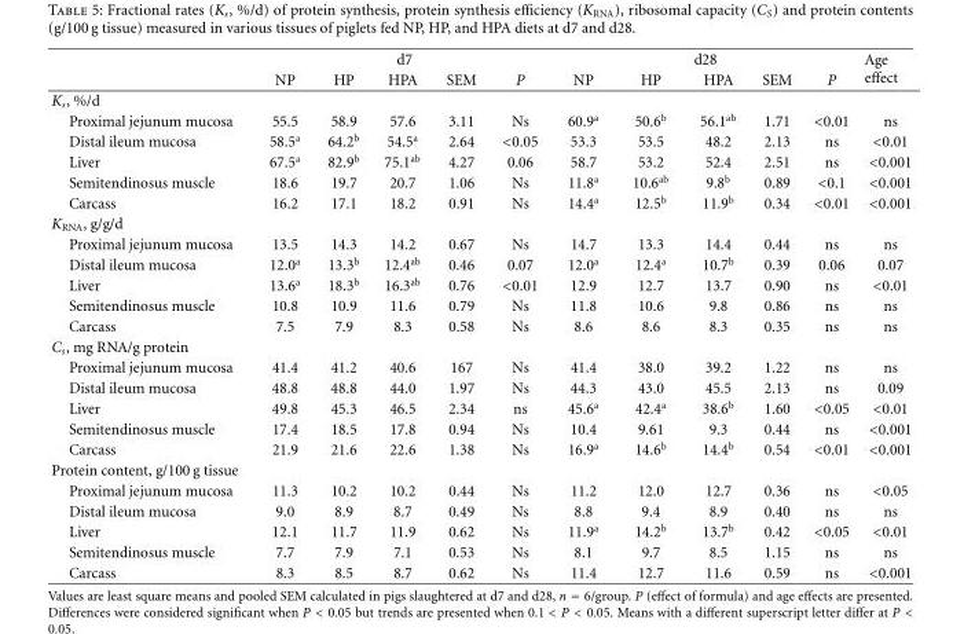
<table><thead><tr><td rowspan="2"></td><td colspan="5">d7</td><td colspan="5">d28</td><td rowspan="2">Age effect</td></tr><tr><td>NP</td><td>HP</td><td>HPA</td><td>SEM</td><td>P</td><td>NP</td><td>HP</td><td>HPA</td><td>SEM</td><td>P</td></tr></thead><tbody><tr><td colspan="12">K<sub>s</sub>, %/d</td></tr><tr><td>Proximal jejunum mucosa</td><td>55.5</td><td>58.9</td><td>57.6</td><td>3.11</td><td>Ns</td><td>60.9<sup>a</sup></td><td>50.6<sup>b</sup></td><td>56.1<sup>ab</sup></td><td>1.71</td><td>&lt;0.01</td><td>ns</td></tr><tr><td>Distal ileum mucosa</td><td>58.5<sup>a</sup></td><td>64.2<sup>b</sup></td><td>54.5<sup>a</sup></td><td>2.64</td><td>&lt;0.05</td><td>53.3</td><td>53.5</td><td>48.2</td><td>2.13</td><td>ns</td><td>&lt;0.01</td></tr><tr><td>Liver</td><td>67.5<sup>a</sup></td><td>82.9<sup>b</sup></td><td>75.1<sup>ab</sup></td><td>4.27</td><td>0.06</td><td>58.7</td><td>53.2</td><td>52.4</td><td>2.51</td><td>ns</td><td>&lt;0.001</td></tr><tr><td>Semitendinosus muscle</td><td>18.6</td><td>19.7</td><td>20.7</td><td>1.06</td><td>Ns</td><td>11.8<sup>a</sup></td><td>10.6<sup>ab</sup></td><td>9.8<sup>b</sup></td><td>0.89</td><td>&lt;0.1</td><td>&lt;0.001</td></tr><tr><td>Carcass</td><td>16.2</td><td>17.1</td><td>18.2</td><td>0.91</td><td>Ns</td><td>14.4<sup>a</sup></td><td>12.5<sup>b</sup></td><td>11.9<sup>b</sup></td><td>0.34</td><td>&lt;0.01</td><td>&lt;0.001</td></tr><tr><td colspan="12">K<sub>RNA</sub>, g/g/d</td></tr><tr><td>Proximal jejunum mucosa</td><td>13.5</td><td>14.3</td><td>14.2</td><td>0.67</td><td>Ns</td><td>14.7</td><td>13.3</td><td>14.4</td><td>0.44</td><td>ns</td><td>ns</td></tr><tr><td>Distal ileum mucosa</td><td>12.0<sup>a</sup></td><td>13.3<sup>b</sup></td><td>12.4<sup>ab</sup></td><td>0.46</td><td>0.07</td><td>12.0<sup>a</sup></td><td>12.4<sup>a</sup></td><td>10.7<sup>b</sup></td><td>0.39</td><td>0.06</td><td>0.07</td></tr><tr><td>Liver</td><td>13.6<sup>a</sup></td><td>18.3<sup>b</sup></td><td>16.3<sup>ab</sup></td><td>0.76</td><td>&lt;0.01</td><td>12.9</td><td>12.7</td><td>13.7</td><td>0.90</td><td>ns</td><td>&lt;0.01</td></tr><tr><td>Semitendinosus muscle</td><td>10.8</td><td>10.9</td><td>11.6</td><td>0.79</td><td>Ns</td><td>11.8</td><td>10.6</td><td>9.8</td><td>0.86</td><td>ns</td><td>ns</td></tr><tr><td>Carcass</td><td>7.5</td><td>7.9</td><td>8.3</td><td>0.58</td><td>Ns</td><td>8.6</td><td>8.6</td><td>8.3</td><td>0.35</td><td>ns</td><td>ns</td></tr><tr><td colspan="12">C<sub>s</sub>, mg RNA/g protein</td></tr><tr><td>Proximal jejunum mucosa</td><td>41.4</td><td>41.2</td><td>40.6</td><td>167</td><td>Ns</td><td>41.4</td><td>38.0</td><td>39.2</td><td>1.22</td><td>ns</td><td>ns</td></tr><tr><td>Distal ileum mucosa</td><td>48.8</td><td>48.8</td><td>44.0</td><td>1.97</td><td>Ns</td><td>44.3</td><td>43.0</td><td>45.5</td><td>2.13</td><td>ns</td><td>0.09</td></tr><tr><td>Liver</td><td>49.8</td><td>45.3</td><td>46.5</td><td>2.34</td><td>ns</td><td>45.6<sup>a</sup></td><td>42.4<sup>a</sup></td><td>38.6<sup>b</sup></td><td>1.60</td><td>&lt;0.05</td><td>&lt;0.01</td></tr><tr><td>Semitendinosus muscle</td><td>17.4</td><td>18.5</td><td>17.8</td><td>0.94</td><td>Ns</td><td>10.4</td><td>9.61</td><td>9.3</td><td>0.44</td><td>ns</td><td>&lt;0.001</td></tr><tr><td>Carcass</td><td>21.9</td><td>21.6</td><td>22.6</td><td>1.38</td><td>Ns</td><td>16.9<sup>a</sup></td><td>14.6<sup>b</sup></td><td>14.4<sup>b</sup></td><td>0.54</td><td>&lt;0.01</td><td>&lt;0.001</td></tr><tr><td colspan="12">Protein content, g/100 g tissue</td></tr><tr><td>Proximal jejunum mucosa</td><td>11.3</td><td>10.2</td><td>10.2</td><td>0.44</td><td>Ns</td><td>11.2</td><td>12.0</td><td>12.7</td><td>0.36</td><td>ns</td><td>&lt;0.05</td></tr><tr><td>Distal ileum mucosa</td><td>9.0</td><td>8.9</td><td>8.7</td><td>0.49</td><td>Ns</td><td>8.8</td><td>9.4</td><td>8.9</td><td>0.40</td><td>ns</td><td>ns</td></tr><tr><td>Liver</td><td>12.1</td><td>11.7</td><td>11.9</td><td>0.62</td><td>Ns</td><td>11.9<sup>a</sup></td><td>14.2<sup>b</sup></td><td>13.7<sup>b</sup></td><td>0.42</td><td>&lt;0.05</td><td>&lt;0.01</td></tr><tr><td>Semitendinosus muscle</td><td>7.7</td><td>7.9</td><td>7.1</td><td>0.53</td><td>Ns</td><td>8.1</td><td>9.7</td><td>8.5</td><td>1.15</td><td>ns</td><td>ns</td></tr><tr><td>Carcass</td><td>8.3</td><td>8.5</td><td>8.7</td><td>0.62</td><td>Ns</td><td>11.4</td><td>12.7</td><td>11.6</td><td>0.59</td><td>ns</td><td>&lt;0.001</td></tr></tbody></table>